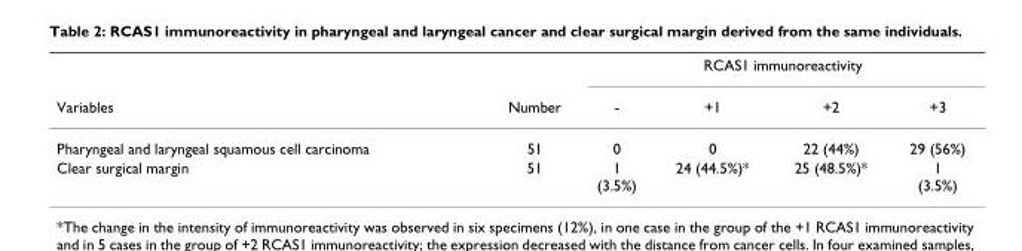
<table><thead><tr><td rowspan="2">Variables</td><td rowspan="2">Number</td><td colspan="4">RCAS1 immunoreactivity</td></tr><tr><td>-</td><td>+1</td><td>+2</td><td>+3</td></tr></thead><tbody><tr><td>Pharyngeal and laryngeal squamous cell carcinoma</td><td>51</td><td>0</td><td>0</td><td>22 (44%)</td><td>29 (56%)</td></tr><tr><td>Clear surgical margin</td><td>51</td><td>1 (3.5%)</td><td>24 (44.5%)*</td><td>25 (48.5%)*</td><td>1 (3.5%)</td></tr></tbody></table>